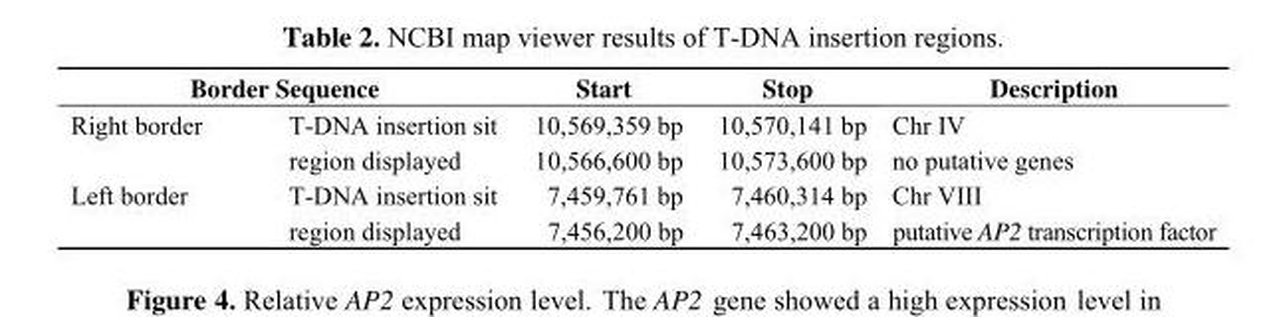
<table><thead><tr><td colspan="2">Border Sequence</td><td rowspan="2">Start 10,569,359 bp</td><td rowspan="2">Stop 10,570,141 bp</td><td rowspan="2">Description Chr IV</td></tr><tr><td>Right border</td><td>T-DNA insertion sit</td></tr></thead><tbody><tr><td></td><td>region displayed</td><td>10,566,600 bp</td><td>10,573,600 bp</td><td>no putative genes</td></tr><tr><td rowspan="2">Left border</td><td>T-DNA insertion sit</td><td>7,459,761 bp</td><td>7,460,314 bp</td><td>Chr VIII</td></tr><tr><td>region displayed</td><td>7,456,200 bp</td><td>7,463,200 bp</td><td>putative AP2 transcription factor</td></tr></tbody></table>